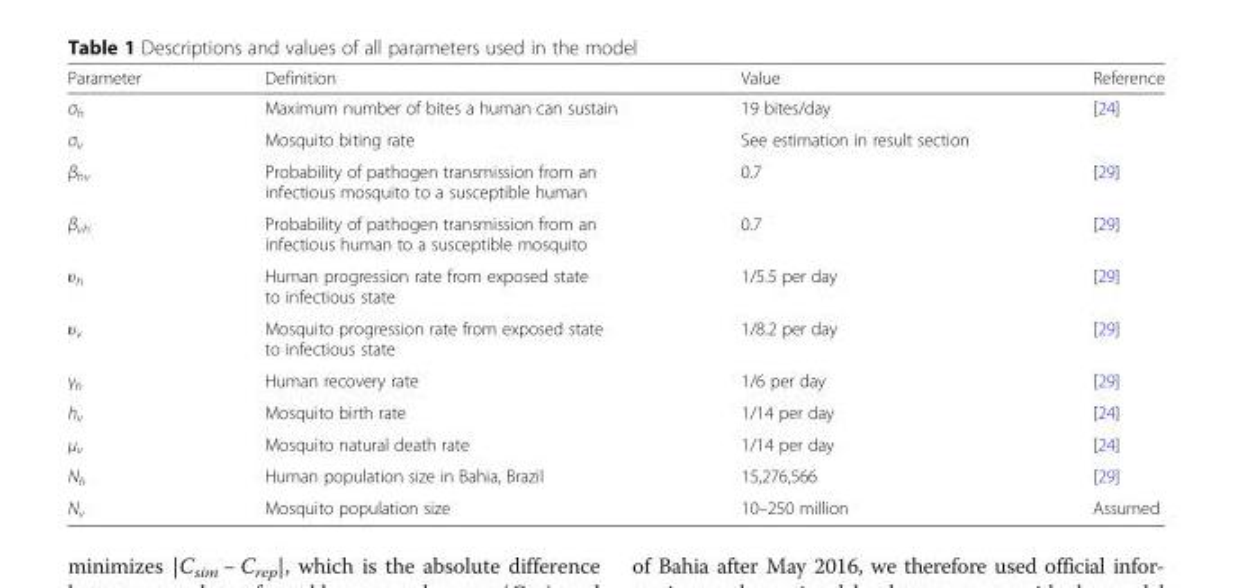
<table><thead><tr><td>Parameter</td><td>Definition</td><td>Value</td><td>Reference</td></tr></thead><tbody><tr><td>σ<sub>h</sub></td><td>Maximum number of bites a human can sustain</td><td>19 bites/day</td><td>[24]</td></tr><tr><td>σ<sub>v</sub></td><td>Mosquito biting rate</td><td>See estimation in result section</td><td></td></tr><tr><td>β<sub>hv</sub></td><td>Probability of pathogen transmission from an infectious mosquito to a susceptible human</td><td>0.7</td><td>[29]</td></tr><tr><td>β<sub>vh</sub></td><td>Probability of pathogen transmission from an infectious human to a susceptible mosquito</td><td>0.7</td><td>[29]</td></tr><tr><td>υ<sub>h</sub></td><td>Human progression rate from exposed state to infectious state</td><td>1/5.5 per day</td><td>[29]</td></tr><tr><td>υ<sub>v</sub></td><td>Mosquito progression rate from exposed state to infectious state</td><td>1/8.2 per day</td><td>[29]</td></tr><tr><td>γ<sub>h</sub></td><td>Human recovery rate</td><td>1/6 per day</td><td>[29]</td></tr><tr><td>h<sub>v</sub></td><td>Mosquito birth rate</td><td>1/14 per day</td><td>[24]</td></tr><tr><td>μ<sub>v</sub></td><td>Mosquito natural death rate</td><td>1/14 per day</td><td>[24]</td></tr><tr><td>N<sub>h</sub></td><td>Human population size in Bahia, Brazil</td><td>15,276,566</td><td>[29]</td></tr><tr><td>N<sub>v</sub></td><td>Mosquito population size</td><td>10–250 million</td><td>Assumed</td></tr></tbody></table>